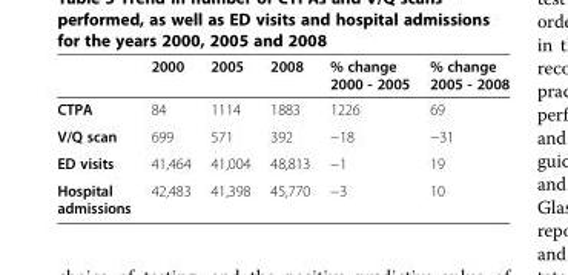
<table><thead><tr><td></td><td>2000</td><td>2005</td><td>2008</td><td>% change 2000 - 2005</td><td>% change 2005 - 2008</td></tr></thead><tbody><tr><td>CTPA</td><td>84</td><td>1114</td><td>1883</td><td>1226</td><td>69</td></tr><tr><td>V/Q scan</td><td>699</td><td>571</td><td>392</td><td>−18</td><td>−31</td></tr><tr><td>ED visits</td><td>41,464</td><td>41,004</td><td>48,813</td><td>−1</td><td>19</td></tr><tr><td>Hospital admissions</td><td>42,483</td><td>41,398</td><td>45,770</td><td>−3</td><td>10</td></tr></tbody></table>